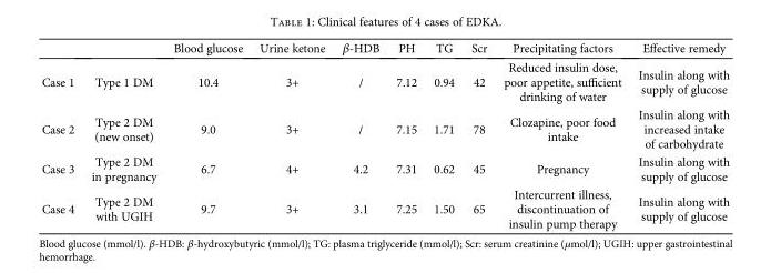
<table><thead><tr><td></td><td></td><td>Blood glucose</td><td>Urine ketone</td><td>β-HDB</td><td>PH</td><td>TG</td><td>Scr</td><td>Precipitating factors</td><td>Effective remedy</td></tr></thead><tbody><tr><td>Case 1</td><td>Type 1 DM</td><td>10.4</td><td>3+</td><td>/</td><td>7.12</td><td>0.94</td><td>42</td><td>Reduced insulin dose, poor appetite, sufficient drinking of water</td><td>Insulin along with supply of glucose</td></tr><tr><td>Case 2</td><td>Type 2 DM (new onset)</td><td>9.0</td><td>3+</td><td>/</td><td>7.15</td><td>1.71</td><td>78</td><td>Clozapine, poor food intake</td><td>Insulin along with increased intake of carbohydrate</td></tr><tr><td>Case 3</td><td>Type 2 DM in pregnancy</td><td>6.7</td><td>4+</td><td>4.2</td><td>7.31</td><td>0.62</td><td>45</td><td>Pregnancy</td><td>Insulin along with supply of glucose</td></tr><tr><td>Case 4</td><td>Type 2 DM with UGIH</td><td>9.7</td><td>3+</td><td>3.1</td><td>7.25</td><td>1.50</td><td>65</td><td>Intercurrent illness, discontinuation of insulin pump therapy</td><td>Insulin along with supply of glucose</td></tr></tbody></table>